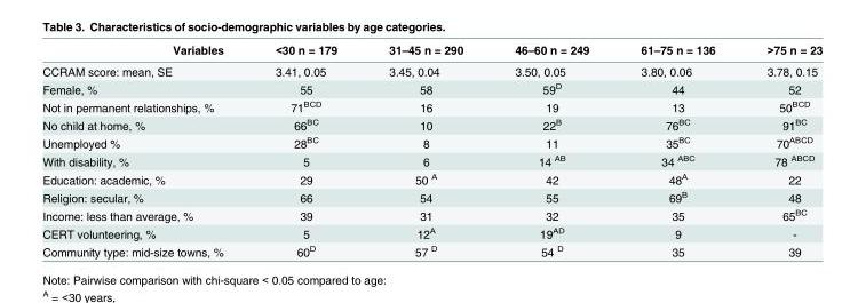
<table><thead><tr><td>Variables</td><td>&lt;30 n = 179</td><td>31–45 n = 290</td><td>46–60 n = 249</td><td>61–75 n = 136</td><td>&gt;75 n = 23</td></tr></thead><tbody><tr><td>CCRAM score: mean, SE</td><td>3.41, 0.05</td><td>3.45, 0.04</td><td>3.50, 0.05</td><td>3.80, 0.06</td><td>3.78, 0.15</td></tr><tr><td>Female, %</td><td>55</td><td>58</td><td>59<sup>D</sup></td><td>44</td><td>52</td></tr><tr><td>Not in permanent relationships, %</td><td>71<sup>BCD</sup></td><td>16</td><td>19</td><td>13</td><td>50<sup>BCD</sup></td></tr><tr><td>No child at home, %</td><td>66<sup>BC</sup></td><td>10</td><td>22<sup>B</sup></td><td>76<sup>BC</sup></td><td>91<sup>BC</sup></td></tr><tr><td>Unemployed %</td><td>28<sup>BC</sup></td><td>8</td><td>11</td><td>35<sup>BC</sup></td><td>70<sup>ABCD</sup></td></tr><tr><td>With disability, %</td><td>5</td><td>6</td><td>14 <sup>AB</sup></td><td>34 <sup>ABC</sup></td><td>78 <sup>ABCD</sup></td></tr><tr><td>Education: academic, %</td><td>29</td><td>50 <sup>A</sup></td><td>42</td><td>48<sup>A</sup></td><td>22</td></tr><tr><td>Religion: secular, %</td><td>66</td><td>54</td><td>55</td><td>69<sup>B</sup></td><td>48</td></tr><tr><td>Income: less than average, %</td><td>39</td><td>31</td><td>32</td><td>35</td><td>65<sup>BC</sup></td></tr><tr><td>CERT volunteering, %</td><td>5</td><td>12<sup>A</sup></td><td>19<sup>AD</sup></td><td>9</td><td>-</td></tr><tr><td>Community type: mid-size towns, %</td><td>60<sup>D</sup></td><td>57 <sup>D</sup></td><td>54 <sup>D</sup></td><td>35</td><td>39</td></tr></tbody></table>